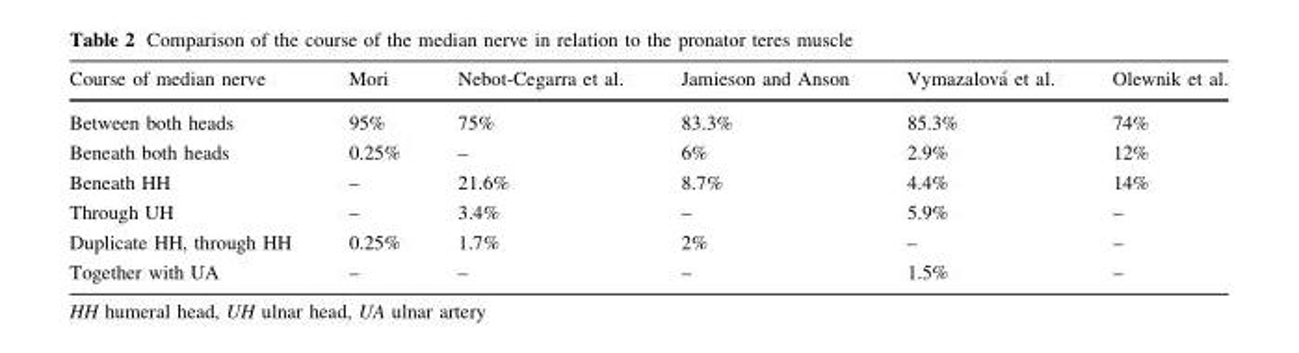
<table><thead><tr><td>Course of median nerve</td><td>Mori</td><td>Nebot-Cegarra et al.</td><td>Jamieson and Anson</td><td>Vymazalova´ et al.</td><td>Olewnik et al.</td></tr></thead><tbody><tr><td>Between both heads</td><td>95%</td><td>75%</td><td>83.3%</td><td>85.3%</td><td>74%</td></tr><tr><td>Beneath both heads</td><td>0.25%</td><td>–</td><td>6%</td><td>2.9%</td><td>12%</td></tr><tr><td>Beneath HH</td><td>–</td><td>21.6%</td><td>8.7%</td><td>4.4%</td><td>14%</td></tr><tr><td>Through UH</td><td>–</td><td>3.4%</td><td>–</td><td>5.9%</td><td>–</td></tr><tr><td>Duplicate HH, through HH</td><td>0.25%</td><td>1.7%</td><td>2%</td><td>–</td><td>–</td></tr><tr><td>Together with UA</td><td>–</td><td>–</td><td>–</td><td>1.5%</td><td>–</td></tr></tbody></table>